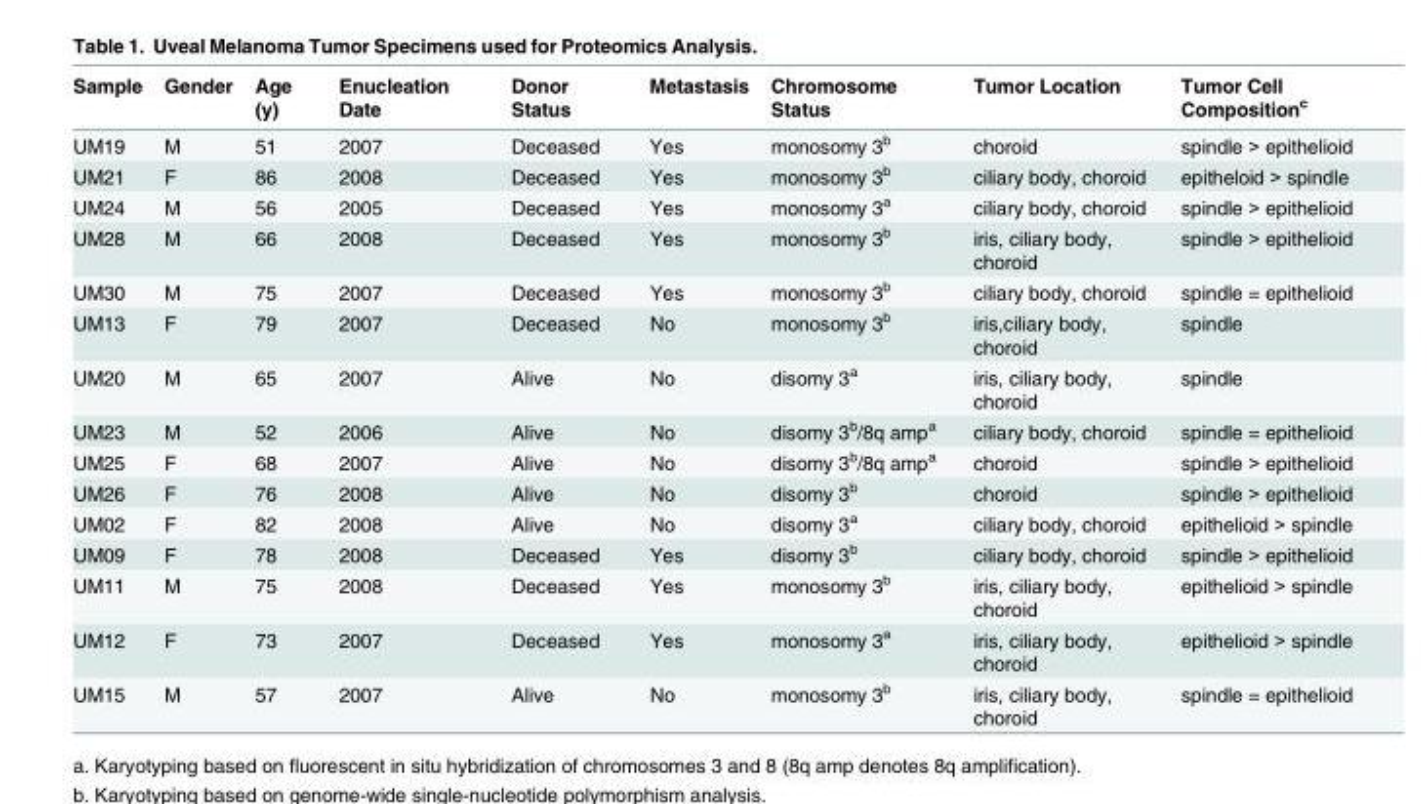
<table><thead><tr><td>Sample</td><td>Gender</td><td>Age (y)</td><td>Enucleation Date</td><td>Donor Status</td><td>Metastasis</td><td>Chromosome Status</td><td>Tumor Location</td><td>Tumor Cell Composition<sup>c</sup></td></tr></thead><tbody><tr><td>UM19</td><td>M</td><td>51</td><td>2007</td><td>Deceased</td><td>Yes</td><td>monosomy 3<sup>b</sup></td><td>choroid</td><td>spindle &gt; epithelioid</td></tr><tr><td>UM21</td><td>F</td><td>86</td><td>2008</td><td>Deceased</td><td>Yes</td><td>monosomy 3<sup>b</sup></td><td>ciliary body, choroid</td><td>epitheloid &gt; spindle</td></tr><tr><td>UM24</td><td>M</td><td>56</td><td>2005</td><td>Deceased</td><td>Yes</td><td>monosomy 3<sup>a</sup></td><td>ciliary body, choroid</td><td>spindle &gt; epithelioid</td></tr><tr><td>UM28</td><td>M</td><td>66</td><td>2008</td><td>Deceased</td><td>Yes</td><td>monosomy 3<sup>b</sup></td><td>iris, ciliary body, choroid</td><td>spindle &gt; epithelioid</td></tr><tr><td>UM30</td><td>M</td><td>75</td><td>2007</td><td>Deceased</td><td>Yes</td><td>monosomy 3<sup>b</sup></td><td>ciliary body, choroid</td><td>spindle = epithelioid</td></tr><tr><td>UM13</td><td>F</td><td>79</td><td>2007</td><td>Deceased</td><td>No</td><td>monosomy 3<sup>b</sup></td><td>iris,ciliary body, choroid</td><td>spindle</td></tr><tr><td>UM20</td><td>M</td><td>65</td><td>2007</td><td>Alive</td><td>No</td><td>disomy 3<sup>a</sup></td><td>iris, ciliary body, choroid</td><td>spindle</td></tr><tr><td>UM23</td><td>M</td><td>52</td><td>2006</td><td>Alive</td><td>No</td><td>disomy 3<sup>b</sup>/8q amp<sup>a</sup></td><td>ciliary body, choroid</td><td>spindle = epithelioid</td></tr><tr><td>UM25</td><td>F</td><td>68</td><td>2007</td><td>Alive</td><td>No</td><td>disomy 3<sup>b</sup>/8q amp<sup>a</sup></td><td>choroid</td><td>spindle &gt; epithelioid</td></tr><tr><td>UM26</td><td>F</td><td>76</td><td>2008</td><td>Alive</td><td>No</td><td>disomy 3<sup>b</sup></td><td>choroid</td><td>spindle &gt; epithelioid</td></tr><tr><td>UM02</td><td>F</td><td>82</td><td>2008</td><td>Alive</td><td>No</td><td>disomy 3<sup>a</sup></td><td>ciliary body, choroid</td><td>epithelioid &gt; spindle</td></tr><tr><td>UM09</td><td>F</td><td>78</td><td>2008</td><td>Deceased</td><td>Yes</td><td>disomy 3<sup>b</sup></td><td>ciliary body, choroid</td><td>spindle &gt; epithelioid</td></tr><tr><td>UM11</td><td>M</td><td>75</td><td>2008</td><td>Deceased</td><td>Yes</td><td>monosomy 3<sup>b</sup></td><td>iris, ciliary body, choroid</td><td>epithelioid &gt; spindle</td></tr><tr><td>UM12</td><td>F</td><td>73</td><td>2007</td><td>Deceased</td><td>Yes</td><td>monosomy 3<sup>a</sup></td><td>iris, ciliary body, choroid</td><td>epithelioid &gt; spindle</td></tr><tr><td>UM15</td><td>M</td><td>57</td><td>2007</td><td>Alive</td><td>No</td><td>monosomy 3<sup>b</sup></td><td>iris, ciliary body, choroid</td><td>spindle = epithelioid</td></tr></tbody></table>